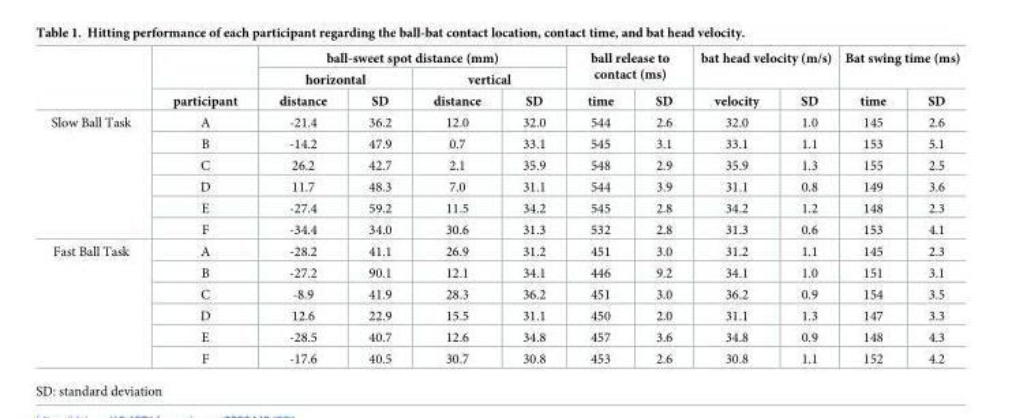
<table><thead><tr><td rowspan="3"></td><td rowspan="3">participant</td><td colspan="4">ball-sweet spot distance (mm)</td><td rowspan="2" colspan="2">ball release to contact (ms)</td><td rowspan="2" colspan="2">bat head velocity (m/s)</td><td rowspan="2" colspan="2">Bat swing time (ms)</td></tr><tr><td colspan="2">horizontal</td><td colspan="2">vertical</td></tr><tr><td>distance</td><td>SD</td><td>distance</td><td>SD</td><td>time</td><td>SD</td><td>velocity</td><td>SD</td><td>time</td><td>SD</td></tr></thead><tbody><tr><td rowspan="6">Slow Ball Task</td><td>A</td><td>-21.4</td><td>36.2</td><td>12.0</td><td>32.0</td><td>544</td><td>2.6</td><td>32.0</td><td>1.0</td><td>145</td><td>2.6</td></tr><tr><td>B</td><td>-14.2</td><td>47.9</td><td>0.7</td><td>33.1</td><td>545</td><td>3.1</td><td>33.1</td><td>1.1</td><td>153</td><td>5.1</td></tr><tr><td>C</td><td>26.2</td><td>42.7</td><td>2.1</td><td>35.9</td><td>548</td><td>2.9</td><td>35.9</td><td>1.3</td><td>155</td><td>2.5</td></tr><tr><td>D</td><td>11.7</td><td>48.3</td><td>7.0</td><td>31.1</td><td>544</td><td>3.9</td><td>31.1</td><td>0.8</td><td>149</td><td>3.6</td></tr><tr><td>E</td><td>-27.4</td><td>59.2</td><td>11.5</td><td>34.2</td><td>545</td><td>2.8</td><td>34.2</td><td>1.2</td><td>148</td><td>2.3</td></tr><tr><td>F</td><td>-34.4</td><td>34.0</td><td>30.6</td><td>31.3</td><td>532</td><td>2.8</td><td>31.3</td><td>0.6</td><td>153</td><td>4.1</td></tr><tr><td rowspan="6">Fast Ball Task</td><td>A</td><td>-28.2</td><td>41.1</td><td>26.9</td><td>31.2</td><td>451</td><td>3.0</td><td>31.2</td><td>1.1</td><td>145</td><td>2.3</td></tr><tr><td>B</td><td>-27.2</td><td>90.1</td><td>12.1</td><td>34.1</td><td>446</td><td>9.2</td><td>34.1</td><td>1.0</td><td>151</td><td>3.1</td></tr><tr><td>C</td><td>-8.9</td><td>41.9</td><td>28.3</td><td>36.2</td><td>451</td><td>3.0</td><td>36.2</td><td>0.9</td><td>154</td><td>3.5</td></tr><tr><td>D</td><td>12.6</td><td>22.9</td><td>15.5</td><td>31.1</td><td>450</td><td>2.0</td><td>31.1</td><td>1.3</td><td>147</td><td>3.3</td></tr><tr><td>E</td><td>-28.5</td><td>40.7</td><td>12.6</td><td>34.8</td><td>457</td><td>3.6</td><td>34.8</td><td>0.9</td><td>148</td><td>4.3</td></tr><tr><td>F</td><td>-17.6</td><td>40.5</td><td>30.7</td><td>30.8</td><td>453</td><td>2.6</td><td>30.8</td><td>1.1</td><td>152</td><td>4.2</td></tr></tbody></table>